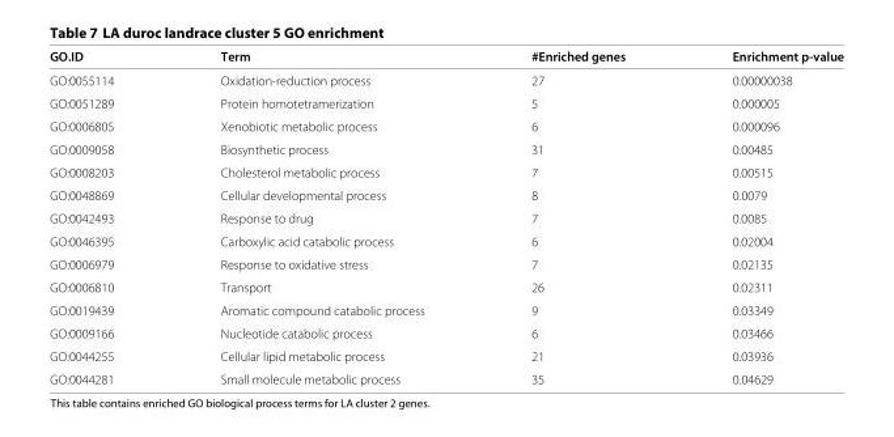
<table><thead><tr><td>GO.ID</td><td>Term</td><td>#Enriched genes</td><td>Enrichment p-value</td></tr></thead><tbody><tr><td>GO:0055114</td><td>Oxidation-reduction process</td><td>27</td><td>0.00000038</td></tr><tr><td>GO:0051289</td><td>Protein homotetramerization</td><td>5</td><td>0.000005</td></tr><tr><td>GO:0006805</td><td>Xenobiotic metabolic process</td><td>6</td><td>0.000096</td></tr><tr><td>GO:0009058</td><td>Biosynthetic process</td><td>31</td><td>0.00485</td></tr><tr><td>GO:0008203</td><td>Cholesterol metabolic process</td><td>7</td><td>0.00515</td></tr><tr><td>GO:0048869</td><td>Cellular developmental process</td><td>8</td><td>0.0079</td></tr><tr><td>GO:0042493</td><td>Response to drug</td><td>7</td><td>0.0085</td></tr><tr><td>GO:0046395</td><td>Carboxylic acid catabolic process</td><td>6</td><td>0.02004</td></tr><tr><td>GO:0006979</td><td>Response to oxidative stress</td><td>7</td><td>0.02135</td></tr><tr><td>GO:0006810</td><td>Transport</td><td>26</td><td>0.02311</td></tr><tr><td>GO:0019439</td><td>Aromatic compound catabolic process</td><td>9</td><td>0.03349</td></tr><tr><td>GO:0009166</td><td>Nucleotide catabolic process</td><td>6</td><td>0.03466</td></tr><tr><td>GO:0044255</td><td>Cellular lipid metabolic process</td><td>21</td><td>0.03936</td></tr><tr><td>GO:0044281</td><td>Small molecule metabolic process</td><td>35</td><td>0.04629</td></tr></tbody></table>